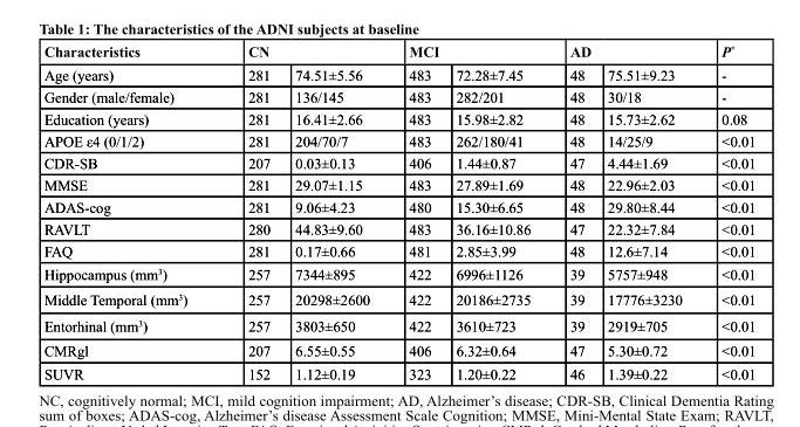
<table><thead><tr><td rowspan="2">characteristics Age (years)</td><td colspan="2">cN</td><td colspan="2">McI</td><td colspan="2">AD</td><td rowspan="2">P* -</td></tr><tr><td>281</td><td>74.51±5.56</td><td>483</td><td>72.28±7.45</td><td>48</td><td>75.51±9.23</td></tr></thead><tbody><tr><td>Gender (male/female)</td><td>281</td><td>136/145</td><td>483</td><td>282/201</td><td>48</td><td>30/18</td><td>-</td></tr><tr><td>Education (years)</td><td>281</td><td>16.41±2.66</td><td>483</td><td>15.98±2.82</td><td>48</td><td>15.73±2.62</td><td>0.08</td></tr><tr><td>APOE ε4 (0/1/2)</td><td>281</td><td>204/70/7</td><td>483</td><td>262/180/41</td><td>48</td><td>14/25/9</td><td>&lt;0.01</td></tr><tr><td>CDR-SB</td><td>207</td><td>0.03±0.13</td><td>406</td><td>1.44±0.87</td><td>47</td><td>4.44±1.69</td><td>&lt;0.01</td></tr><tr><td>MMSE</td><td>281</td><td>29.07±1.15</td><td>483</td><td>27.89±1.69</td><td>48</td><td>22.96±2.03</td><td>&lt;0.01</td></tr><tr><td>ADAS-cog</td><td>281</td><td>9.06±4.23</td><td>480</td><td>15.30±6.65</td><td>48</td><td>29.80±8.44</td><td>&lt;0.01</td></tr><tr><td>RAVLT</td><td>280</td><td>44.83±9.60</td><td>483</td><td>36.16±10.86</td><td>47</td><td>22.32±7.84</td><td>&lt;0.01</td></tr><tr><td>FAQ</td><td>281</td><td>0.17±0.66</td><td>481</td><td>2.85±3.99</td><td>48</td><td>12.6±7.14</td><td>&lt;0.01</td></tr><tr><td>Hippocampus (mm<sup>3</sup>)</td><td>257</td><td>7344±895</td><td>422</td><td>6996±1126</td><td>39</td><td>5757±948</td><td>&lt;0.01</td></tr><tr><td>Middle Temporal (mm<sup>3</sup>)</td><td>257</td><td>20298±2600</td><td>422</td><td>20186±2735</td><td>39</td><td>17776±3230</td><td>&lt;0.01</td></tr><tr><td>Entorhinal (mm<sup>3</sup>)</td><td>257</td><td>3803±650</td><td>422</td><td>3610±723</td><td>39</td><td>2919±705</td><td>&lt;0.01</td></tr><tr><td>CMRgl</td><td>207</td><td>6.55±0.55</td><td>406</td><td>6.32±0.64</td><td>47</td><td>5.30±0.72</td><td>&lt;0.01</td></tr><tr><td>SUVR</td><td>152</td><td>1.12±0.19</td><td>323</td><td>1.20±0.22</td><td>46</td><td>1.39±0.22</td><td>&lt;0.01</td></tr></tbody></table>